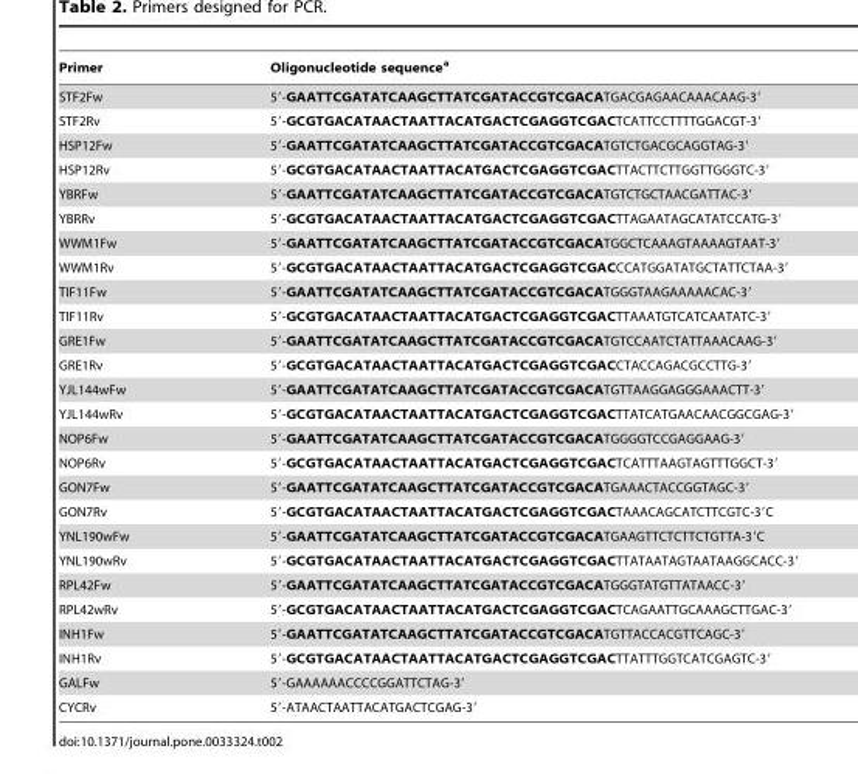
<table><thead><tr><td>Primer</td><td>Oligonucleotide sequence<sup>a</sup></td></tr></thead><tbody><tr><td>STF2Fw</td><td>5′-GAATTCGATATCAAGCTTATCGATACCGTCGACATGACGAGAACAAACAAG-3′</td></tr><tr><td>STF2Rv</td><td>5′-GCGTGACATAACTAATTACATGACTCGAGGTCGACTCATTCCTTTTGGACGT-3′</td></tr><tr><td>HSP12Fw</td><td>5′-GAATTCGATATCAAGCTTATCGATACCGTCGACATGTCTGACGCAGGTAG-3′</td></tr><tr><td>HSP12Rv</td><td>5′-GCGTGACATAACTAATTACATGACTCGAGGTCGACTTACTTCTTGGTTGGGTC-3′</td></tr><tr><td>YBRFw</td><td>5′-GAATTCGATATCAAGCTTATCGATACCGTCGACATGTCTGCTAACGATTAC-3′</td></tr><tr><td>YBRRv</td><td>5′-GCGTGACATAACTAATTACATGACTCGAGGTCGACTTAGAATAGCATATCCATG-3′</td></tr><tr><td>WWM1Fw</td><td>5′-GAATTCGATATCAAGCTTATCGATACCGTCGACATGGCTCAAAGTAAAAGTAAT-3′</td></tr><tr><td>WWM1Rv</td><td>5′-GCGTGACATAACTAATTACATGACTCGAGGTCGACCCATGGATATGCTATTCTAA-3′</td></tr><tr><td>TIF11Fw</td><td>5′-GAATTCGATATCAAGCTTATCGATACCGTCGACATGGGTAAGAAAAACAC-3′</td></tr><tr><td>TIF11Rv</td><td>5′-GCGTGACATAACTAATTACATGACTCGAGGTCGACTTAAATGTCATCAATATC-3′</td></tr><tr><td>GRE1Fw</td><td>5′-GAATTCGATATCAAGCTTATCGATACCGTCGACATGTCCAATCTATTAAACAAG-3′</td></tr><tr><td>GRE1Rv</td><td>5′-GCGTGACATAACTAATTACATGACTCGAGGTCGACCTACCAGACGCCTTG-3′</td></tr><tr><td>YJL144wFw</td><td>5′-GAATTCGATATCAAGCTTATCGATACCGTCGACATGTTAAGGAGGGAAACTT-3′</td></tr><tr><td>YJL144wRv</td><td>5′-GCGTGACATAACTAATTACATGACTCGAGGTCGACTTATCATGAACAACGGCGAG-3′</td></tr><tr><td>NOP6Fw</td><td>5′-GAATTCGATATCAAGCTTATCGATACCGTCGACATGGGGTCCGAGGAAG-3′</td></tr><tr><td>NOP6Rv</td><td>5′-GCGTGACATAACTAATTACATGACTCGAGGTCGACTCATTTAAGTAGTTTGGCT-3′</td></tr><tr><td>GON7Fw</td><td>5′-GAATTCGATATCAAGCTTATCGATACCGTCGACATGAAACTACCGGTAGC-3′</td></tr><tr><td>GON7Rv</td><td>5′-GCGTGACATAACTAATTACATGACTCGAGGTCGACTAAACAGCATCTTCGTC-3′C</td></tr><tr><td>YNL190wFw</td><td>5′-GAATTCGATATCAAGCTTATCGATACCGTCGACATGAAGTTCTCTTCTGTTA-3′C</td></tr><tr><td>YNL190wRv</td><td>5′-GCGTGACATAACTAATTACATGACTCGAGGTCGACTTATAATAGTAATAAGGCACC-3′</td></tr><tr><td>RPL42Fw</td><td>5′-GAATTCGATATCAAGCTTATCGATACCGTCGACATGGGTATGTTATAACC-3′</td></tr><tr><td>RPL42wRv</td><td>5′-GCGTGACATAACTAATTACATGACTCGAGGTCGACTCAGAATTGCAAAGCTTGAC-3′</td></tr><tr><td>INH1Fw</td><td>5′-GAATTCGATATCAAGCTTATCGATACCGTCGACATGTTACCACGTTCAGC-3′</td></tr><tr><td>INH1Rv</td><td>5′-GCGTGACATAACTAATTACATGACTCGAGGTCGACTTATTTGGTCATCGAGTC-3′</td></tr><tr><td>GALFw</td><td>5′-GAAAAAACCCCGGATTCTAG-3′</td></tr><tr><td>CYCRv</td><td>5′-ATAACTAATTACATGACTCGAG-3′</td></tr></tbody></table>